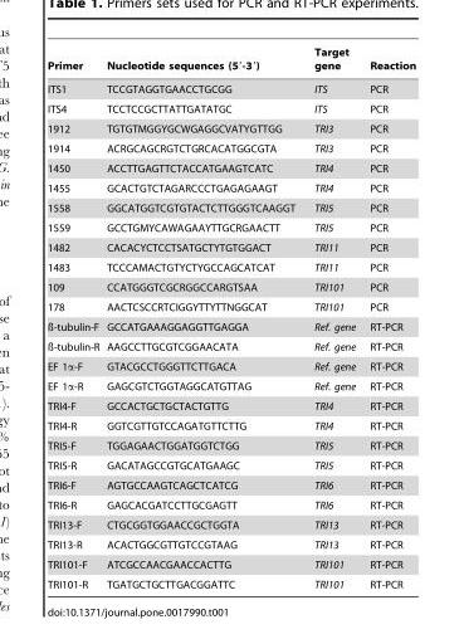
<table><thead><tr><td>Primer</td><td>Nucleotide sequences (5′-3′)</td><td>Target gene</td><td>Reaction</td></tr></thead><tbody><tr><td>ITS1</td><td>TCCGTAGGTGAACCTGCGG</td><td>ITS</td><td>PCR</td></tr><tr><td>ITS4</td><td>TCCTCCGCTTATTGATATGC</td><td>ITS</td><td>PCR</td></tr><tr><td>1912</td><td>TGTGTMGGYGCWGAGGCVATYGTTGG</td><td>TRI3</td><td>PCR</td></tr><tr><td>1914</td><td>ACRGCAGCRGTCTGRCACATGGCGTA</td><td>TRI3</td><td>PCR</td></tr><tr><td>1450</td><td>ACCTTGAGTTCTACCATGAAGTCATC</td><td>TRI4</td><td>PCR</td></tr><tr><td>1455</td><td>GCACTGTCTAGARCCCTGAGAGAAGT</td><td>TRI4</td><td>PCR</td></tr><tr><td>1558</td><td>GGCATGGTCGTGTACTCTTGGGTCAAGGT</td><td>TRI5</td><td>PCR</td></tr><tr><td>1559</td><td>GCCTGMYCAWAGAAYTTGCRGAACTT</td><td>TRI5</td><td>PCR</td></tr><tr><td>1482</td><td>CACACYCTCCTSATGCTYTGTGGACT</td><td>TRI11</td><td>PCR</td></tr><tr><td>1483</td><td>TCCCAMACTGTYCTYGCCAGCATCAT</td><td>TRI11</td><td>PCR</td></tr><tr><td>109</td><td>CCATGGGTCGCRGGCCARGTSAA</td><td>TRI101</td><td>PCR</td></tr><tr><td>178</td><td>AACTCSCCRTCIGGYTTYTTNGGCAT</td><td>TRI101</td><td>PCR</td></tr><tr><td>ß-tubulin-F</td><td>GCCATGAAAGGAGGTTGAGGA</td><td>Ref. gene</td><td>RT-PCR</td></tr><tr><td>ß-tubulin-R</td><td>AAGCCTTGCGTCGGAACATA</td><td>Ref. gene</td><td>RT-PCR</td></tr><tr><td>EF 1α-F</td><td>GTACGCCTGGGTTCTTGACA</td><td>Ref. gene</td><td>RT-PCR</td></tr><tr><td>EF 1α-R</td><td>GAGCGTCTGGTAGGCATGTTAG</td><td>Ref. gene</td><td>RT-PCR</td></tr><tr><td>TRI4-F</td><td>GCCACTGCTGCTACTGTTG</td><td>TRI4</td><td>RT-PCR</td></tr><tr><td>TRI4-R</td><td>GGTCGTTGTCCAGATGTTCTTG</td><td>TRI4</td><td>RT-PCR</td></tr><tr><td>TRI5-F</td><td>TGGAGAACTGGATGGTCTGG</td><td>TRI5</td><td>RT-PCR</td></tr><tr><td>TRI5-R</td><td>GACATAGCCGTGCATGAAGC</td><td>TRI5</td><td>RT-PCR</td></tr><tr><td>TRI6-F</td><td>AGTGCCAAGTCAGCTCATCG</td><td>TRI6</td><td>RT-PCR</td></tr><tr><td>TRI6-R</td><td>GAGCACGATCCTTGCGAGTT</td><td>TRI6</td><td>RT-PCR</td></tr><tr><td>TRI13-F</td><td>CTGCGGTGGAACCGCTGGTA</td><td>TRI13</td><td>RT-PCR</td></tr><tr><td>TRI13-R</td><td>ACACTGGCGTTGTCCGTAAG</td><td>TRI13</td><td>RT-PCR</td></tr><tr><td>TRI101-F</td><td>ATCGCCAACGAACCACTTG</td><td>TRI101</td><td>RT-PCR</td></tr><tr><td>TRI101-R</td><td>TGATGCTGCTTGACGGATTC</td><td>TRI101</td><td>RT-PCR</td></tr></tbody></table>